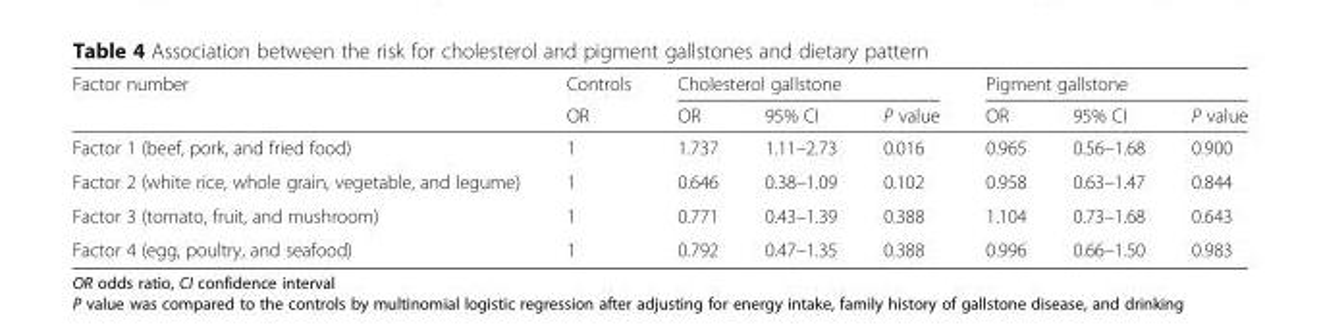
<table><thead><tr><td rowspan="2">Factor number</td><td rowspan="2">Controls OR</td><td colspan="3">Cholesterol gallstone</td><td colspan="3">Pigment gallstone</td></tr><tr><td>OR</td><td>95% CI</td><td>P value</td><td>OR</td><td>95% CI</td><td>P value</td></tr></thead><tbody><tr><td>Factor 1 (beef, pork, and fried food)</td><td>1</td><td>1.737</td><td>1.11–2.73</td><td>0.016</td><td>0.965</td><td>0.56–1.68</td><td>0.900</td></tr><tr><td>Factor 2 (white rice, whole grain, vegetable, and legume)</td><td>1</td><td>0.646</td><td>0.38–1.09</td><td>0.102</td><td>0.958</td><td>0.63–1.47</td><td>0.844</td></tr><tr><td>Factor 3 (tomato, fruit, and mushroom)</td><td>1</td><td>0.771</td><td>0.43–1.39</td><td>0.388</td><td>1.104</td><td>0.73–1.68</td><td>0.643</td></tr><tr><td>Factor 4 (egg, poultry, and seafood)</td><td>1</td><td>0.792</td><td>0.47–1.35</td><td>0.388</td><td>0.996</td><td>0.66–1.50</td><td>0.983</td></tr></tbody></table>